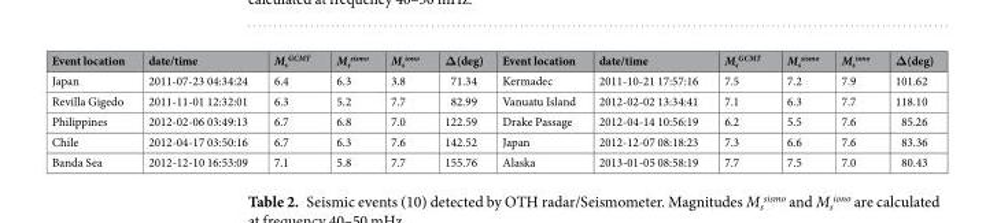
<table><thead><tr><td>Event location</td><td>date/time</td><td>M<sub>s</sub> <sup>GCMT</sup></td><td>M<sub>s</sub> <sup>sismo</sup></td><td>M<sub>s</sub> <sup>iono</sup></td><td>Δ(deg)</td><td>Event location</td><td>date/time</td><td>M<sub>s</sub> <sup>GCMT</sup></td><td>M<sub>s</sub> <sup>sismo</sup></td><td>M<sub>s</sub> <sup>iono</sup></td><td>Δ(deg)</td></tr></thead><tbody><tr><td>Japan</td><td>2011-07-23 04:34:24</td><td>6.4</td><td>6.3</td><td>3.8</td><td>71.34</td><td>Kermadec</td><td>2011-10-21 17:57:16</td><td>7.5</td><td>7.2</td><td>7.9</td><td>101.62</td></tr><tr><td>Revilla Gigedo</td><td>2011-11-01 12:32:01</td><td>6.3</td><td>5.2</td><td>7.7</td><td>82.99</td><td>Vanuatu Island</td><td>2012-02-02 13:34:41</td><td>7.1</td><td>6.3</td><td>7.7</td><td>118.10</td></tr><tr><td>Philippines</td><td>2012-02-06 03:49:13</td><td>6.7</td><td>6.8</td><td>7.0</td><td>122.59</td><td>Drake Passage</td><td>2012-04-14 10:56:19</td><td>6.2</td><td>5.5</td><td>7.6</td><td>85.26</td></tr><tr><td>Chile</td><td>2012-04-17 03:50:16</td><td>6.7</td><td>6.3</td><td>7.6</td><td>142.52</td><td>Japan</td><td>2012-12-07 08:18:23</td><td>7.3</td><td>6.6</td><td>7.6</td><td>83.36</td></tr><tr><td>Banda Sea</td><td>2012-12-10 16:53:09</td><td>7.1</td><td>5.8</td><td>7.7</td><td>155.76</td><td>Alaska</td><td>2013-01-05 08:58:19</td><td>7.7</td><td>7.5</td><td>7.0</td><td>80.43</td></tr></tbody></table>